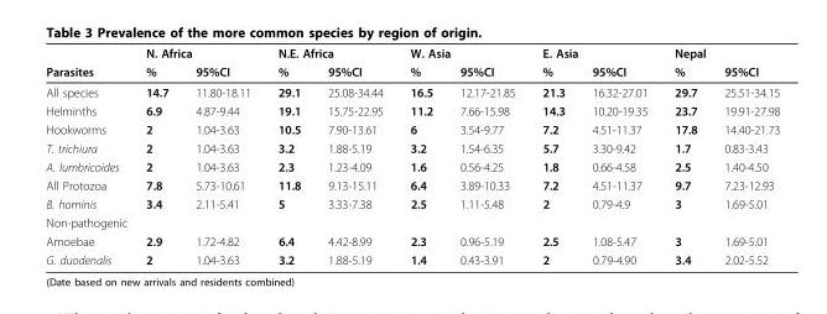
<table><thead><tr><td rowspan="2">Parasites</td><td colspan="2">N. Africa</td><td colspan="2">N.E. Africa</td><td colspan="2">W. Asia</td><td colspan="2">E. Asia</td><td colspan="2">Nepal</td></tr><tr><td>%</td><td>95%CI</td><td>%</td><td>95%CI</td><td>%</td><td>95%CI</td><td>%</td><td>95%CI</td><td>%</td><td>95%CI</td></tr></thead><tbody><tr><td>All species</td><td>14.7</td><td>11.80-18.11</td><td>29.1</td><td>25.08-34.44</td><td>16.5</td><td>12.17-21.85</td><td>21.3</td><td>16.32-27.01</td><td>29.7</td><td>25.51-34.15</td></tr><tr><td>Helminths</td><td>6.9</td><td>4.87-9.44</td><td>19.1</td><td>15.75-22.95</td><td>11.2</td><td>7.66-15.98</td><td>14.3</td><td>10.20-19.35</td><td>23.7</td><td>19.91-27.98</td></tr><tr><td>Hookworms</td><td>2</td><td>1.04-3.63</td><td>10.5</td><td>7.90-13.61</td><td>6</td><td>3.54-9.77</td><td>7.2</td><td>4.51-11.37</td><td>17.8</td><td>14.40-21.73</td></tr><tr><td>T. trichiura</td><td>2</td><td>1.04-3.63</td><td>3.2</td><td>1.88-5.19</td><td>3.2</td><td>1.54-6.35</td><td>5.7</td><td>3.30-9.42</td><td>1.7</td><td>0.83-3.43</td></tr><tr><td>A. lumbricoides</td><td>2</td><td>1.04-3.63</td><td>2.3</td><td>1.23-4.09</td><td>1.6</td><td>0.56-4.25</td><td>1.8</td><td>0.66-4.58</td><td>2.5</td><td>1.40-4.50</td></tr><tr><td>All Protozoa</td><td>7.8</td><td>5.73-10.61</td><td>11.8</td><td>9.13-15.11</td><td>6.4</td><td>3.89-10.33</td><td>7.2</td><td>4.51-11.37</td><td>9.7</td><td>7.23-12.93</td></tr><tr><td>B. hominis</td><td>3.4</td><td>2.11-5.41</td><td>5</td><td>3.33-7.38</td><td>2.5</td><td>1.11-5.48</td><td>2</td><td>0.79-4.9</td><td>3</td><td>1.69-5.01</td></tr><tr><td colspan="11">Non-pathogenic</td></tr><tr><td>Amoebae</td><td>2.9</td><td>1.72-4.82</td><td>6.4</td><td>4.42-8.99</td><td>2.3</td><td>0.96-5.19</td><td>2.5</td><td>1.08-5.47</td><td>3</td><td>1.69-5.01</td></tr><tr><td>G. duodenalis</td><td>2</td><td>1.04-3.63</td><td>3.2</td><td>1.88-5.19</td><td>1.4</td><td>0.43-3.91</td><td>2</td><td>0.79-4.90</td><td>3.4</td><td>2.02-5.52</td></tr></tbody></table>